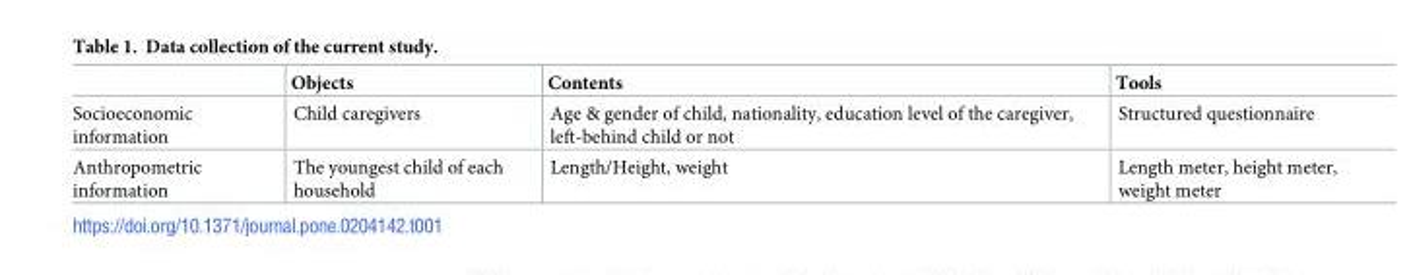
<table><thead><tr><td></td><td>Objects</td><td>Contents</td><td>Tools</td></tr></thead><tbody><tr><td>Socioeconomic information</td><td>Child caregivers</td><td>Age &amp; gender of child, nationality, education level of the caregiver, left-behind child or not</td><td>Structured questionnaire</td></tr><tr><td>Anthropometric information</td><td>The youngest child of each household</td><td>Length/Height, weight</td><td>Length meter, height meter, weight meter</td></tr></tbody></table>